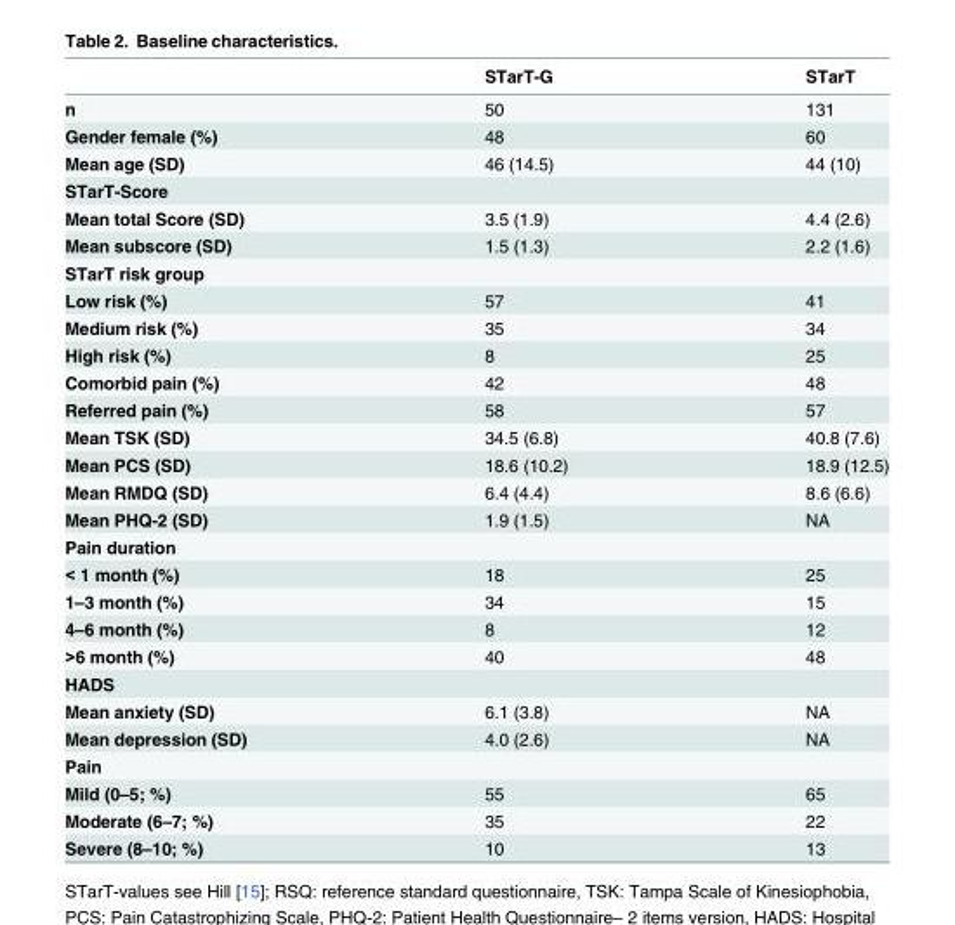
<table><thead><tr><td></td><td>STarT-G</td><td>STarT</td></tr></thead><tbody><tr><td>n</td><td>50</td><td>131</td></tr><tr><td>Gender female (%)</td><td>48</td><td>60</td></tr><tr><td>Mean age (SD)</td><td>46 (14.5)</td><td>44 (10)</td></tr><tr><td colspan="3">STarT-Score</td></tr><tr><td>Mean total Score (SD)</td><td>3.5 (1.9)</td><td>4.4 (2.6)</td></tr><tr><td>Mean subscore (SD)</td><td>1.5 (1.3)</td><td>2.2 (1.6)</td></tr><tr><td colspan="3">STarT risk group</td></tr><tr><td>Low risk (%)</td><td>57</td><td>41</td></tr><tr><td>Medium risk (%)</td><td>35</td><td>34</td></tr><tr><td>High risk (%)</td><td>8</td><td>25</td></tr><tr><td>Comorbid pain (%)</td><td>42</td><td>48</td></tr><tr><td>Referred pain (%)</td><td>58</td><td>57</td></tr><tr><td>Mean TSK (SD)</td><td>34.5 (6.8)</td><td>40.8 (7.6)</td></tr><tr><td>Mean PCS (SD)</td><td>18.6 (10.2)</td><td>18.9 (12.5)</td></tr><tr><td>Mean RMDQ (SD)</td><td>6.4 (4.4)</td><td>8.6 (6.6)</td></tr><tr><td>Mean PHQ-2 (SD)</td><td>1.9 (1.5)</td><td>NA</td></tr><tr><td colspan="3">Pain duration</td></tr><tr><td>&lt; 1 month (%)</td><td>18</td><td>25</td></tr><tr><td>1–3 month (%)</td><td>34</td><td>15</td></tr><tr><td>4–6 month (%)</td><td>8</td><td>12</td></tr><tr><td>&gt;6 month (%)</td><td>40</td><td>48</td></tr><tr><td colspan="3">HADS</td></tr><tr><td>Mean anxiety (SD)</td><td>6.1 (3.8)</td><td>NA</td></tr><tr><td>Mean depression (SD)</td><td>4.0 (2.6)</td><td>NA</td></tr><tr><td colspan="3">Pain</td></tr><tr><td>Mild (0–5; %)</td><td>55</td><td>65</td></tr><tr><td>Moderate (6–7; %)</td><td>35</td><td>22</td></tr><tr><td>Severe (8–10; %)</td><td>10</td><td>13</td></tr></tbody></table>